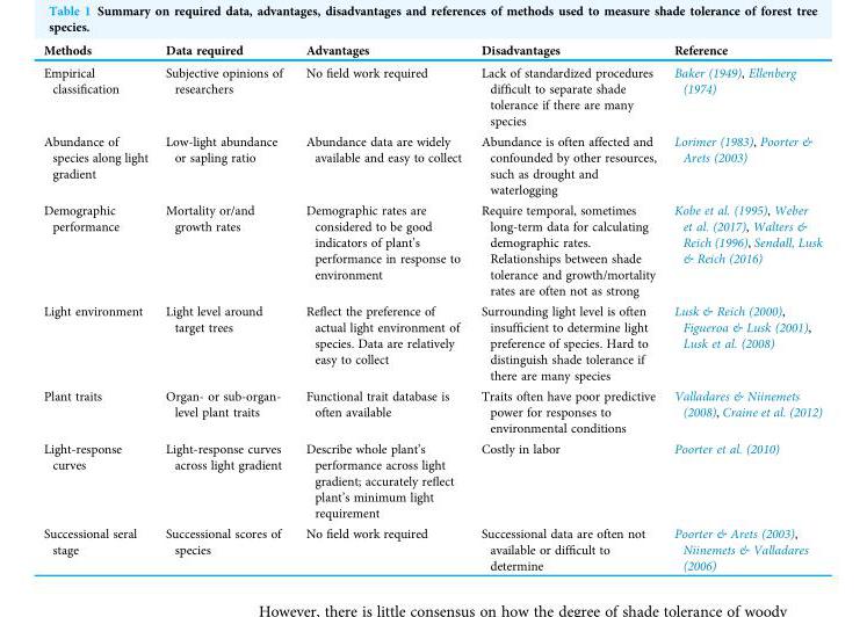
<table><thead><tr><td>Methods</td><td>Data required</td><td>Advantages</td><td>Disadvantages</td><td>Reference</td></tr></thead><tbody><tr><td>Empirical classification</td><td>Subjective opinions of researchers</td><td>No field work required</td><td>Lack of standardized procedures difficult to separate shade tolerance if there are many species</td><td>Baker (1949), Ellenberg (1974)</td></tr><tr><td>Abundance of species along light gradient</td><td>Low-light abundance or sapling ratio</td><td>Abundance data are widely available and easy to collect</td><td>Abundance is often affected and confounded by other resources, such as drought and waterlogging</td><td>Lorimer (1983), Poorter &amp; Arets (2003)</td></tr><tr><td>Demographic performance</td><td>Mortality or/and growth rates</td><td>Demographic rates are considered to be good indicators of plant’s performance in response to environment</td><td>Require temporal, sometimes long-term data for calculating demographic rates. Relationships between shade tolerance and growth/mortality rates are often not as strong</td><td>Kobe et al. (1995), Weber et al. (2017), Walters &amp; Reich (1996), Sendall, Lusk &amp; Reich (2016)</td></tr><tr><td>Light environment</td><td>Light level around target trees</td><td>Reflect the preference of actual light environment of species. Data are relatively easy to collect</td><td>Surrounding light level is often insufficient to determine light preference of species. Hard to distinguish shade tolerance if there are many species</td><td>Lusk &amp; Reich (2000), Figueroa &amp; Lusk (2001), Lusk et al. (2008)</td></tr><tr><td>Plant traits</td><td>Organ- or sub-organ- level plant traits</td><td>Functional trait database is often available</td><td>Traits often have poor predictive power for responses to environmental conditions</td><td>Valladares &amp; Niinemets (2008), Craine et al. (2012)</td></tr><tr><td>Light-response curves</td><td>Light-response curves across light gradient</td><td>Describe whole plant’s performance across light gradient; accurately reflect plant’s minimum light requirement</td><td>Costly in labor</td><td>Poorter et al. (2010)</td></tr><tr><td>Successional seral stage</td><td>Successional scores of species</td><td>No field work required</td><td>Successional data are often not available or difficult to determine</td><td>Poorter &amp; Arets (2003), Niinemets &amp; Valladares (2006)</td></tr></tbody></table>